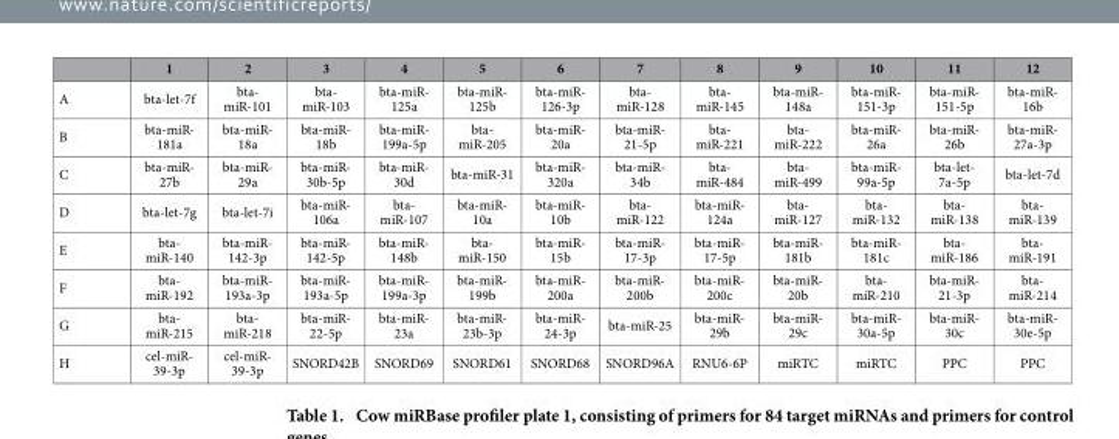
<table><thead><tr><td></td><td>1</td><td>2</td><td>3</td><td>4</td><td>5</td><td>6</td><td>7</td><td>8</td><td>9</td><td>10</td><td>11</td><td>12</td></tr></thead><tbody><tr><td>A</td><td>bta-let-7f</td><td>bta- miR-101</td><td>bta- miR-103</td><td>bta-miR- 125a</td><td>bta-miR- 125b</td><td>bta-miR- 126-3p</td><td>bta- miR-128</td><td>bta- miR-145</td><td>bta-miR- 148a</td><td>bta-miR- 151-3p</td><td>bta-miR- 151-5p</td><td>bta-miR- 16b</td></tr><tr><td>B</td><td>bta-miR- 181a</td><td>bta-miR- 18a</td><td>bta-miR- 18b</td><td>bta-miR- 199a-5p</td><td>bta- miR-205</td><td>bta-miR- 20a</td><td>bta-miR- 21-5p</td><td>bta- miR-221</td><td>bta- miR-222</td><td>bta-miR- 26a</td><td>bta-miR- 26b</td><td>bta-miR- 27a-3p</td></tr><tr><td>C</td><td>bta-miR- 27b</td><td>bta-miR- 29a</td><td>bta-miR- 30b-5p</td><td>bta-miR- 30d</td><td>bta-miR-31</td><td>bta-miR- 320a</td><td>bta-miR- 34b</td><td>bta- miR-484</td><td>bta- miR-499</td><td>bta-miR- 99a-5p</td><td>bta-let- 7a-5p</td><td>bta-let-7d</td></tr><tr><td>D</td><td>bta-let-7g</td><td>bta-let-7i</td><td>bta-miR- 106a</td><td>bta- miR-107</td><td>bta-miR- 10a</td><td>bta-miR- 10b</td><td>bta- miR-122</td><td>bta-miR- 124a</td><td>bta- miR-127</td><td>bta- miR-132</td><td>bta- miR-138</td><td>bta- miR-139</td></tr><tr><td>E</td><td>bta- miR-140</td><td>bta-miR- 142-3p</td><td>bta-miR- 142-5p</td><td>bta-miR- 148b</td><td>bta- miR-150</td><td>bta-miR- 15b</td><td>bta-miR- 17-3p</td><td>bta-miR- 17-5p</td><td>bta-miR- 181b</td><td>bta-miR- 181c</td><td>bta- miR-186</td><td>bta- miR-191</td></tr><tr><td>F</td><td>bta- miR-192</td><td>bta-miR- 193a-3p</td><td>bta-miR- 193a-5p</td><td>bta-miR- 199a-3p</td><td>bta-miR- 199b</td><td>bta-miR- 200a</td><td>bta-miR- 200b</td><td>bta-miR- 200c</td><td>bta-miR- 20b</td><td>bta- miR-210</td><td>bta-miR- 21-3p</td><td>bta- miR-214</td></tr><tr><td>G</td><td>bta- miR-215</td><td>bta- miR-218</td><td>bta-miR- 22-5p</td><td>bta-miR- 23a</td><td>bta-miR- 23b-3p</td><td>bta-miR- 24-3p</td><td>bta-miR-25</td><td>bta-miR- 29b</td><td>bta-miR- 29c</td><td>bta-miR- 30a-5p</td><td>bta-miR- 30c</td><td>bta-miR- 30e-5p</td></tr><tr><td>H</td><td>cel-miR- 39-3p</td><td>cel-miR- 39-3p</td><td>SNORD42B</td><td>SNORD69</td><td>SNORD61</td><td>SNORD68</td><td>SNORD96A</td><td>RNU6-6P</td><td>miRTC</td><td>miRTC</td><td>PPC</td><td>PPC</td></tr></tbody></table>